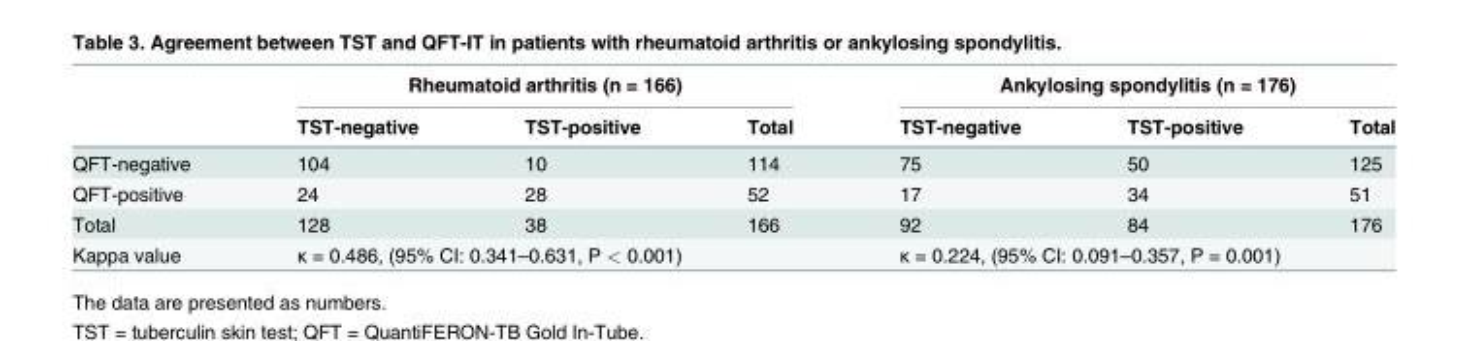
<table><thead><tr><td rowspan="2"></td><td colspan="3">Rheumatoid arthritis (n = 166)</td><td colspan="3">Ankylosing spondylitis (n = 176)</td></tr><tr><td>TST-negative</td><td>TST-positive</td><td>Total</td><td>TST-negative</td><td>TST-positive</td><td>Total</td></tr></thead><tbody><tr><td>QFT-negative</td><td>104</td><td>10</td><td>114</td><td>75</td><td>50</td><td>125</td></tr><tr><td>QFT-positive</td><td>24</td><td>28</td><td>52</td><td>17</td><td>34</td><td>51</td></tr><tr><td>Total</td><td>128</td><td>38</td><td>166</td><td>92</td><td>84</td><td>176</td></tr><tr><td>Kappa value</td><td colspan="3">κ = 0.486, (95% CI: 0.341–0.631, P &lt; 0.001)</td><td colspan="3">κ = 0.224, (95% CI: 0.091–0.357, P = 0.001)</td></tr></tbody></table>